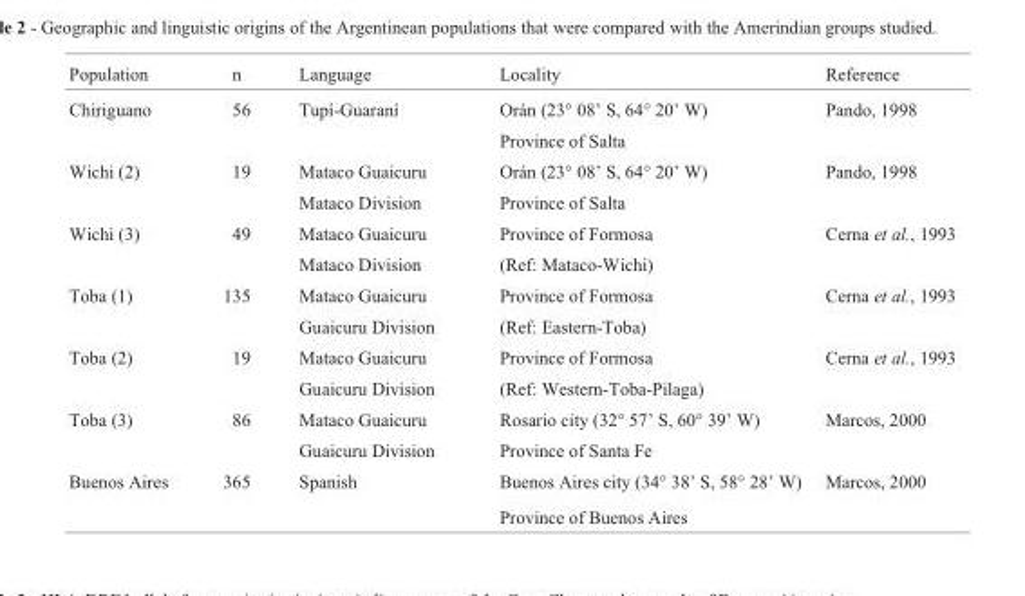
<table><thead><tr><td>Population</td><td>n</td><td>Language</td><td>Locality</td><td>Reference</td></tr></thead><tbody><tr><td rowspan="2">Chiriguano</td><td>56</td><td>Tupí-Guaraní</td><td>Orán (23° 08’ S, 64° 20’ W)</td><td>Pando, 1998</td></tr><tr><td></td><td></td><td>Province of Salta</td><td></td></tr><tr><td rowspan="2">Wichi (2)</td><td>19</td><td>Mataco Guaicuru</td><td>Orán (23° 08’ S, 64° 20’ W)</td><td>Pando, 1998</td></tr><tr><td></td><td>Mataco Division</td><td>Province of Salta</td><td></td></tr><tr><td rowspan="2">Wichi (3)</td><td>49</td><td>Mataco Guaicuru</td><td>Province of Formosa</td><td>Cerna et al., 1993</td></tr><tr><td></td><td>Mataco Division</td><td>(Ref: Mataco-Wichi)</td><td></td></tr><tr><td rowspan="2">Toba (1)</td><td>135</td><td>Mataco Guaicuru</td><td>Province of Formosa</td><td>Cerna et al., 1993</td></tr><tr><td></td><td>Guaicuru Division</td><td>(Ref: Eastern-Toba)</td><td></td></tr><tr><td rowspan="2">Toba (2)</td><td>19</td><td>Mataco Guaicuru</td><td>Province of Formosa</td><td>Cerna et al., 1993</td></tr><tr><td></td><td>Guaicuru Division</td><td>(Ref: Western-Toba-Pilaga)</td><td></td></tr><tr><td rowspan="2">Toba (3)</td><td>86</td><td>Mataco Guaicuru</td><td>Rosario city (32° 57’ S, 60° 39’ W)</td><td>Marcos, 2000</td></tr><tr><td></td><td>Guaicuru Division</td><td>Province of Santa Fe</td><td></td></tr><tr><td rowspan="2">Buenos Aires</td><td>365</td><td>Spanish</td><td>Buenos Aires city (34° 38’ S, 58° 28’ W)</td><td>Marcos, 2000</td></tr><tr><td></td><td></td><td>Province of Buenos Aires</td><td></td></tr></tbody></table>